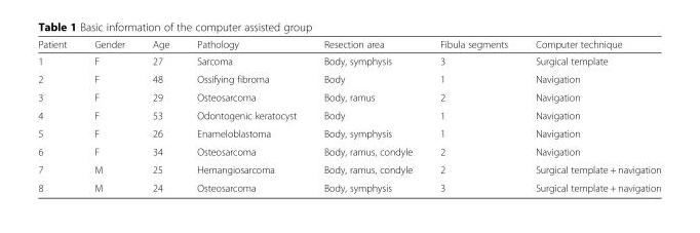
<table><thead><tr><td>Patient</td><td>Gender</td><td>Age</td><td>Pathology</td><td>Resection area</td><td>Fibula segments</td><td>Computer technique</td></tr></thead><tbody><tr><td>1</td><td>F</td><td>27</td><td>Sarcoma</td><td>Body, symphysis</td><td>3</td><td>Surgical template</td></tr><tr><td>2</td><td>F</td><td>48</td><td>Ossifying fibroma</td><td>Body</td><td>1</td><td>Navigation</td></tr><tr><td>3</td><td>F</td><td>29</td><td>Osteosarcoma</td><td>Body, ramus</td><td>2</td><td>Navigation</td></tr><tr><td>4</td><td>F</td><td>53</td><td>Odontogenic keratocyst</td><td>Body</td><td>1</td><td>Navigation</td></tr><tr><td>5</td><td>F</td><td>26</td><td>Enameloblastoma</td><td>Body, symphysis</td><td>1</td><td>Navigation</td></tr><tr><td>6</td><td>F</td><td>34</td><td>Osteosarcoma</td><td>Body, ramus, condyle</td><td>2</td><td>Navigation</td></tr><tr><td>7</td><td>M</td><td>25</td><td>Hemangiosarcoma</td><td>Body, ramus, condyle</td><td>2</td><td>Surgical template + navigation</td></tr><tr><td>8</td><td>M</td><td>24</td><td>Osteosarcoma</td><td>Body, symphysis</td><td>3</td><td>Surgical template + navigation</td></tr></tbody></table>